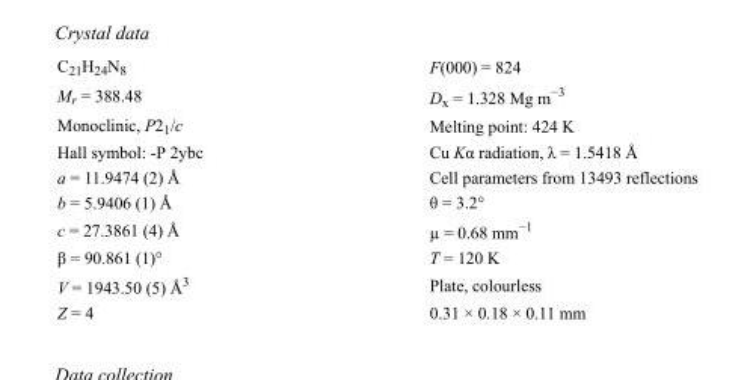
<table><tbody><tr><td>C<sub>21</sub>H<sub>24</sub>N<sub>8</sub></td><td>F(000) = 824</td></tr><tr><td>M<sub>r</sub> = 388.48</td><td>D<sub>x</sub> = 1.328 Mg m<sup>−3</sup></td></tr><tr><td>Monoclinic, P2<sub>1</sub>/c</td><td>Melting point: 424 K</td></tr><tr><td>Hall symbol: -P 2ybc</td><td>Cu Kα radiation, λ = 1.5418 Å</td></tr><tr><td>a = 11.9474 (2) Å</td><td>Cell parameters from 13493 reflections</td></tr><tr><td>b = 5.9406 (1) Å</td><td>θ = 3.2°</td></tr><tr><td>c = 27.3861 (4) Å</td><td>µ = 0.68 mm<sup>−1</sup></td></tr><tr><td>β = 90.861 (1)°</td><td>T = 120 K</td></tr><tr><td>V = 1943.50 (5) Å<sup>3</sup></td><td>Plate, colourless</td></tr><tr><td>Z = 4</td><td>0.31 × 0.18 × 0.11 mm</td></tr></tbody></table>